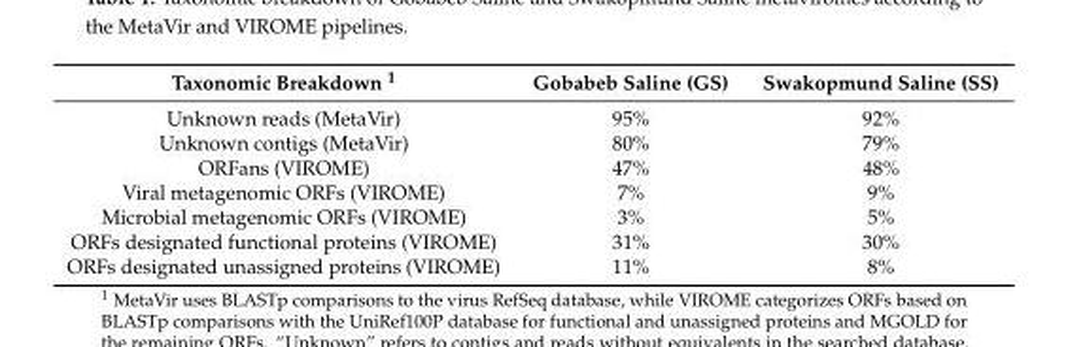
<table><thead><tr><td>Taxonomic Breakdown <sup>1</sup></td><td>Gobabeb Saline (GS)</td><td>Swakopmund Saline (SS)</td></tr></thead><tbody><tr><td>Unknown reads (MetaVir)</td><td>95%</td><td>92%</td></tr><tr><td>Unknown contigs (MetaVir)</td><td>80%</td><td>79%</td></tr><tr><td>ORFans (VIROME)</td><td>47%</td><td>48%</td></tr><tr><td>Viral metagenomic ORFs (VIROME)</td><td>7%</td><td>9%</td></tr><tr><td>Microbial metagenomic ORFs (VIROME)</td><td>3%</td><td>5%</td></tr><tr><td>ORFs designated functional proteins (VIROME)</td><td>31%</td><td>30%</td></tr><tr><td>ORFs designated unassigned proteins (VIROME)</td><td>11%</td><td>8%</td></tr></tbody></table>